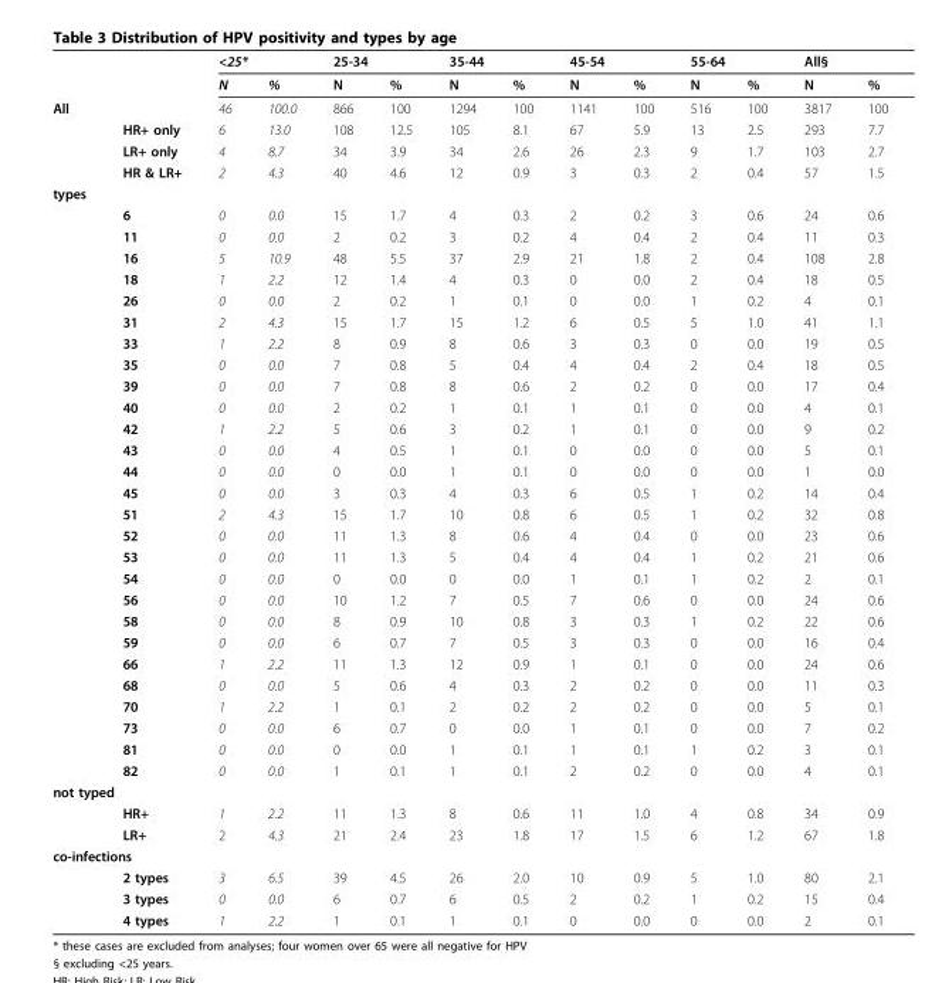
<table><thead><tr><td rowspan="2"></td><td rowspan="2"></td><td colspan="2">&lt;25*</td><td colspan="2">25-34</td><td colspan="2">35-44</td><td colspan="2">45-54</td><td colspan="2">55-64</td><td colspan="2">All§</td></tr><tr><td>N</td><td>%</td><td>N</td><td>%</td><td>N</td><td>%</td><td>N</td><td>%</td><td>N</td><td>%</td><td>N</td><td>%</td></tr></thead><tbody><tr><td rowspan="4">All</td><td></td><td>46</td><td>100.0</td><td>866</td><td>100</td><td>1294</td><td>100</td><td>1141</td><td>100</td><td>516</td><td>100</td><td>3817</td><td>100</td></tr><tr><td>HR+ only</td><td>6</td><td>13.0</td><td>108</td><td>12.5</td><td>105</td><td>8.1</td><td>67</td><td>5.9</td><td>13</td><td>2.5</td><td>293</td><td>7.7</td></tr><tr><td>LR+ only</td><td>4</td><td>8.7</td><td>34</td><td>3.9</td><td>34</td><td>2.6</td><td>26</td><td>2.3</td><td>9</td><td>1.7</td><td>103</td><td>2.7</td></tr><tr><td>HR &amp; LR+</td><td>2</td><td>4.3</td><td>40</td><td>4.6</td><td>12</td><td>0.9</td><td>3</td><td>0.3</td><td>2</td><td>0.4</td><td>57</td><td>1.5</td></tr><tr><td colspan="14">types</td></tr><tr><td></td><td>6</td><td>0</td><td>0.0</td><td>15</td><td>1.7</td><td>4</td><td>0.3</td><td>2</td><td>0.2</td><td>3</td><td>0.6</td><td>24</td><td>0.6</td></tr><tr><td></td><td>11</td><td>0</td><td>0.0</td><td>2</td><td>0.2</td><td>3</td><td>0.2</td><td>4</td><td>0.4</td><td>2</td><td>0.4</td><td>11</td><td>0.3</td></tr><tr><td></td><td>16</td><td>5</td><td>10.9</td><td>48</td><td>5.5</td><td>37</td><td>2.9</td><td>21</td><td>1.8</td><td>2</td><td>0.4</td><td>108</td><td>2.8</td></tr><tr><td></td><td>18</td><td>1</td><td>2.2</td><td>12</td><td>1.4</td><td>4</td><td>0.3</td><td>0</td><td>0.0</td><td>2</td><td>0.4</td><td>18</td><td>0.5</td></tr><tr><td></td><td>26</td><td>0</td><td>0.0</td><td>2</td><td>0.2</td><td>1</td><td>0.1</td><td>0</td><td>0.0</td><td>1</td><td>0.2</td><td>4</td><td>0.1</td></tr><tr><td></td><td>31</td><td>2</td><td>4.3</td><td>15</td><td>1.7</td><td>15</td><td>1.2</td><td>6</td><td>0.5</td><td>5</td><td>1.0</td><td>41</td><td>1.1</td></tr><tr><td></td><td>33</td><td>1</td><td>2.2</td><td>8</td><td>0.9</td><td>8</td><td>0.6</td><td>3</td><td>0.3</td><td>0</td><td>0.0</td><td>19</td><td>0.5</td></tr><tr><td></td><td>35</td><td>0</td><td>0.0</td><td>7</td><td>0.8</td><td>5</td><td>0.4</td><td>4</td><td>0.4</td><td>2</td><td>0.4</td><td>18</td><td>0.5</td></tr><tr><td></td><td>39</td><td>0</td><td>0.0</td><td>7</td><td>0.8</td><td>8</td><td>0.6</td><td>2</td><td>0.2</td><td>0</td><td>0.0</td><td>17</td><td>0.4</td></tr><tr><td></td><td>40</td><td>0</td><td>0.0</td><td>2</td><td>0.2</td><td>1</td><td>0.1</td><td>1</td><td>0.1</td><td>0</td><td>0.0</td><td>4</td><td>0.1</td></tr><tr><td></td><td>42</td><td>1</td><td>2.2</td><td>5</td><td>0.6</td><td>3</td><td>0.2</td><td>1</td><td>0.1</td><td>0</td><td>0.0</td><td>9</td><td>0.2</td></tr><tr><td></td><td>43</td><td>0</td><td>0.0</td><td>4</td><td>0.5</td><td>1</td><td>0.1</td><td>0</td><td>0.0</td><td>0</td><td>0.0</td><td>5</td><td>0.1</td></tr><tr><td></td><td>44</td><td>0</td><td>0.0</td><td>0</td><td>0.0</td><td>1</td><td>0.1</td><td>0</td><td>0.0</td><td>0</td><td>0.0</td><td>1</td><td>0.0</td></tr><tr><td></td><td>45</td><td>0</td><td>0.0</td><td>3</td><td>0.3</td><td>4</td><td>0.3</td><td>6</td><td>0.5</td><td>1</td><td>0.2</td><td>14</td><td>0.4</td></tr><tr><td></td><td>51</td><td>2</td><td>4.3</td><td>15</td><td>1.7</td><td>10</td><td>0.8</td><td>6</td><td>0.5</td><td>1</td><td>0.2</td><td>32</td><td>0.8</td></tr><tr><td></td><td>52</td><td>0</td><td>0.0</td><td>11</td><td>1.3</td><td>8</td><td>0.6</td><td>4</td><td>0.4</td><td>0</td><td>0.0</td><td>23</td><td>0.6</td></tr><tr><td></td><td>53</td><td>0</td><td>0.0</td><td>11</td><td>1.3</td><td>5</td><td>0.4</td><td>4</td><td>0.4</td><td>1</td><td>0.2</td><td>21</td><td>0.6</td></tr><tr><td></td><td>54</td><td>0</td><td>0.0</td><td>0</td><td>0.0</td><td>0</td><td>0.0</td><td>1</td><td>0.1</td><td>1</td><td>0.2</td><td>2</td><td>0.1</td></tr><tr><td></td><td>56</td><td>0</td><td>0.0</td><td>10</td><td>1.2</td><td>7</td><td>0.5</td><td>7</td><td>0.6</td><td>0</td><td>0.0</td><td>24</td><td>0.6</td></tr><tr><td></td><td>58</td><td>0</td><td>0.0</td><td>8</td><td>0.9</td><td>10</td><td>0.8</td><td>3</td><td>0.3</td><td>1</td><td>0.2</td><td>22</td><td>0.6</td></tr><tr><td></td><td>59</td><td>0</td><td>0.0</td><td>6</td><td>0.7</td><td>7</td><td>0.5</td><td>3</td><td>0.3</td><td>0</td><td>0.0</td><td>16</td><td>0.4</td></tr><tr><td></td><td>66</td><td>1</td><td>2.2</td><td>11</td><td>1.3</td><td>12</td><td>0.9</td><td>1</td><td>0.1</td><td>0</td><td>0.0</td><td>24</td><td>0.6</td></tr><tr><td></td><td>68</td><td>0</td><td>0.0</td><td>5</td><td>0.6</td><td>4</td><td>0.3</td><td>2</td><td>0.2</td><td>0</td><td>0.0</td><td>11</td><td>0.3</td></tr><tr><td></td><td>70</td><td>1</td><td>2.2</td><td>1</td><td>0.1</td><td>2</td><td>0.2</td><td>2</td><td>0.2</td><td>0</td><td>0.0</td><td>5</td><td>0.1</td></tr><tr><td></td><td>73</td><td>0</td><td>0.0</td><td>6</td><td>0.7</td><td>0</td><td>0.0</td><td>1</td><td>0.1</td><td>0</td><td>0.0</td><td>7</td><td>0.2</td></tr><tr><td></td><td>81</td><td>0</td><td>0.0</td><td>0</td><td>0.0</td><td>1</td><td>0.1</td><td>1</td><td>0.1</td><td>1</td><td>0.2</td><td>3</td><td>0.1</td></tr><tr><td></td><td>82</td><td>0</td><td>0.0</td><td>1</td><td>0.1</td><td>1</td><td>0.1</td><td>2</td><td>0.2</td><td>0</td><td>0.0</td><td>4</td><td>0.1</td></tr><tr><td colspan="14">not typed</td></tr><tr><td></td><td>HR+</td><td>1</td><td>2.2</td><td>11</td><td>1.3</td><td>8</td><td>0.6</td><td>11</td><td>1.0</td><td>4</td><td>0.8</td><td>34</td><td>0.9</td></tr><tr><td></td><td>LR+</td><td>2</td><td>4.3</td><td>21</td><td>2.4</td><td>23</td><td>1.8</td><td>17</td><td>1.5</td><td>6</td><td>1.2</td><td>67</td><td>1.8</td></tr><tr><td colspan="14">co-infections</td></tr><tr><td></td><td>2 types</td><td>3</td><td>6.5</td><td>39</td><td>4.5</td><td>26</td><td>2.0</td><td>10</td><td>0.9</td><td>5</td><td>1.0</td><td>80</td><td>2.1</td></tr><tr><td></td><td>3 types</td><td>0</td><td>0.0</td><td>6</td><td>0.7</td><td>6</td><td>0.5</td><td>2</td><td>0.2</td><td>1</td><td>0.2</td><td>15</td><td>0.4</td></tr><tr><td></td><td>4 types</td><td>1</td><td>2.2</td><td>1</td><td>0.1</td><td>1</td><td>0.1</td><td>0</td><td>0.0</td><td>0</td><td>0.0</td><td>2</td><td>0.1</td></tr></tbody></table>